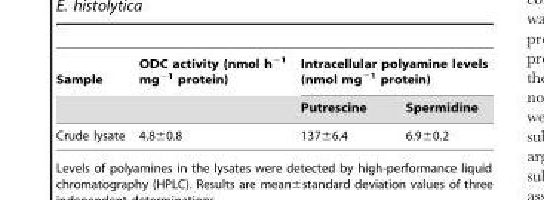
<table><thead><tr><td rowspan="2">Sample</td><td rowspan="2">ODC activity (nmol h<sup>−1</sup> mg<sup>−1</sup> protein)</td><td colspan="2">Intracellular polyamine levels (nmol mg<sup>−1</sup> protein)</td></tr><tr><td>Putrescine</td><td>Spermidine</td></tr></thead><tbody><tr><td>Crude lysate</td><td>4.8±0.8</td><td>137±6.4</td><td>6.9±0.2</td></tr></tbody></table>